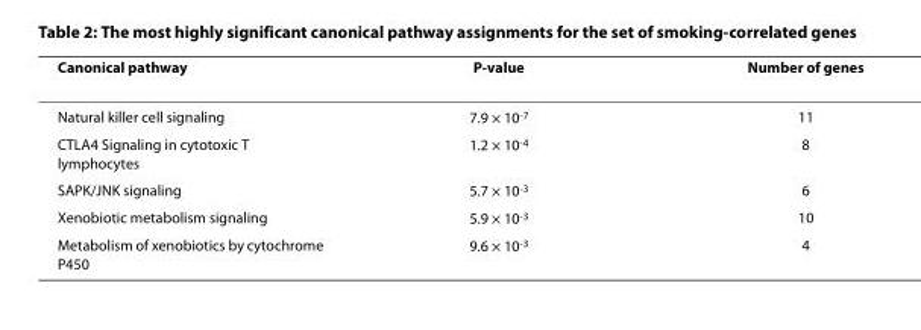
<table><thead><tr><td>Canonical pathway</td><td>P-value</td><td>Number of genes</td></tr></thead><tbody><tr><td>Natural killer cell signaling</td><td>7.9 × 10<sup>-7</sup></td><td>11</td></tr><tr><td>CTLA4 Signaling in cytotoxic T lymphocytes</td><td>1.2 × 10<sup>-4</sup></td><td>8</td></tr><tr><td>SAPK/JNK signaling</td><td>5.7 × 10<sup>-3</sup></td><td>6</td></tr><tr><td>Xenobiotic metabolism signaling</td><td>5.9 × 10<sup>-3</sup></td><td>10</td></tr><tr><td>Metabolism of xenobiotics by cytochrome P450</td><td>9.6 × 10<sup>-3</sup></td><td>4</td></tr></tbody></table>